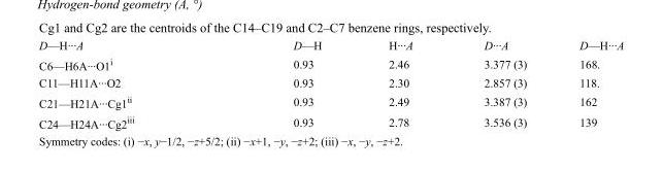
<table><tbody><tr><td>D—H···A</td><td>D—H</td><td>H···A</td><td>D···A</td><td>D—H···A</td></tr><tr><td>C6—H6A···O1<sup>i</sup></td><td>0.93</td><td>2.46</td><td>3.377 (3)</td><td>168.</td></tr><tr><td>C11—H11A···O2</td><td>0.93</td><td>2.30</td><td>2.857 (3)</td><td>118.</td></tr><tr><td>C21—H21A···Cg1<sup>ii</sup></td><td>0.93</td><td>2.49</td><td>3.387 (3)</td><td>162</td></tr><tr><td>C24—H24A···Cg2<sup>iii</sup></td><td>0.93</td><td>2.78</td><td>3.536 (3)</td><td>139</td></tr></tbody></table>